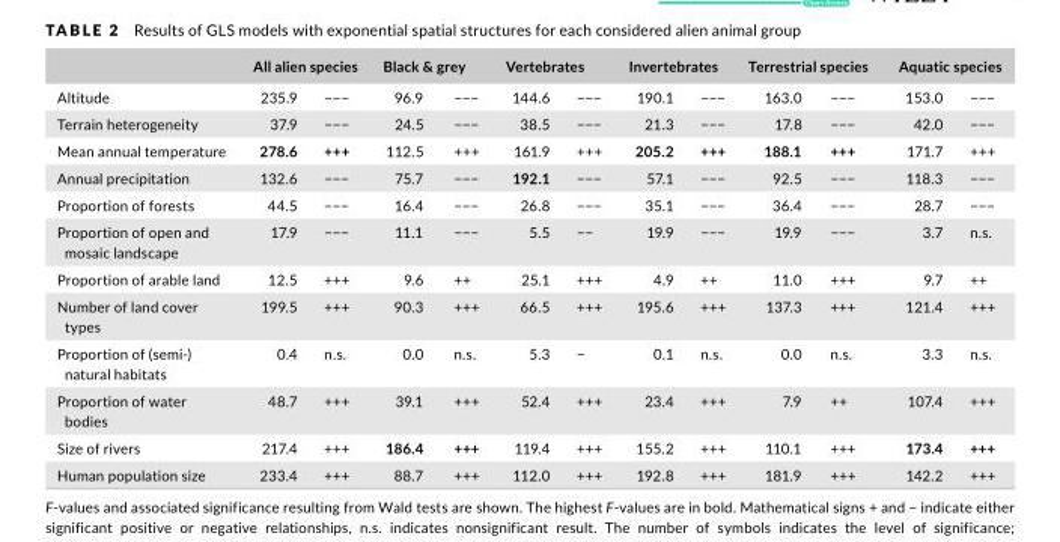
<table><thead><tr><td rowspan="2">Altitude</td><td colspan="2">All alien species</td><td colspan="2">Black &amp; grey</td><td colspan="2">Vertebrates</td><td colspan="2">Invertebrates</td><td colspan="2">Terrestrial species</td><td colspan="2">Aquatic species</td></tr><tr><td>235.9</td><td>−−−</td><td>96.9</td><td>−−−</td><td>144.6</td><td>−−−</td><td>190.1</td><td>−−−</td><td>163.0</td><td>−−−</td><td>153.0</td><td>−−−</td></tr></thead><tbody><tr><td>Terrain heterogeneity</td><td>37.9</td><td>−−−</td><td>24.5</td><td>−−−</td><td>38.5</td><td>−−−</td><td>21.3</td><td>−−−</td><td>17.8</td><td>−−−</td><td>42.0</td><td>−−−</td></tr><tr><td>Mean annual temperature</td><td>278.6</td><td>+++</td><td>112.5</td><td>+++</td><td>161.9</td><td>+++</td><td>205.2</td><td>+++</td><td>188.1</td><td>+++</td><td>171.7</td><td>+++</td></tr><tr><td>Annual precipitation</td><td>132.6</td><td>−−−</td><td>75.7</td><td>−−−</td><td>192.1</td><td>−−−</td><td>57.1</td><td>−−−</td><td>92.5</td><td>−−−</td><td>118.3</td><td>−−−</td></tr><tr><td>Proportion of forests</td><td>44.5</td><td>−−−</td><td>16.4</td><td>−−−</td><td>26.8</td><td>−−−</td><td>35.1</td><td>−−−</td><td>36.4</td><td>−−−</td><td>28.7</td><td>−−−</td></tr><tr><td>Proportion of open and mosaic landscape</td><td>17.9</td><td>−−−</td><td>11.1</td><td>−−−</td><td>5.5</td><td>−−</td><td>19.9</td><td>−−−</td><td>19.9</td><td>−−−</td><td>3.7</td><td>n.s.</td></tr><tr><td>Proportion of arable land</td><td>12.5</td><td>+++</td><td>9.6</td><td>++</td><td>25.1</td><td>+++</td><td>4.9</td><td>++</td><td>11.0</td><td>+++</td><td>9.7</td><td>++</td></tr><tr><td>Number of land cover types</td><td>199.5</td><td>+++</td><td>90.3</td><td>+++</td><td>66.5</td><td>+++</td><td>195.6</td><td>+++</td><td>137.3</td><td>+++</td><td>121.4</td><td>+++</td></tr><tr><td>Proportion of (semi- ) natural habitats</td><td>0.4</td><td>n.s.</td><td>0.0</td><td>n.s.</td><td>5.3</td><td>−</td><td>0.1</td><td>n.s.</td><td>0.0</td><td>n.s.</td><td>3.3</td><td>n.s.</td></tr><tr><td>Proportion of water bodies</td><td>48.7</td><td>+++</td><td>39.1</td><td>+++</td><td>52.4</td><td>+++</td><td>23.4</td><td>+++</td><td>7.9</td><td>++</td><td>107.4</td><td>+++</td></tr><tr><td>Size of rivers</td><td>217.4</td><td>+++</td><td>186.4</td><td>+++</td><td>119.4</td><td>+++</td><td>155.2</td><td>+++</td><td>110.1</td><td>+++</td><td>173.4</td><td>+++</td></tr><tr><td>Human population size</td><td>233.4</td><td>+++</td><td>88.7</td><td>+++</td><td>112.0</td><td>+++</td><td>192.8</td><td>+++</td><td>181.9</td><td>+++</td><td>142.2</td><td>+++</td></tr></tbody></table>